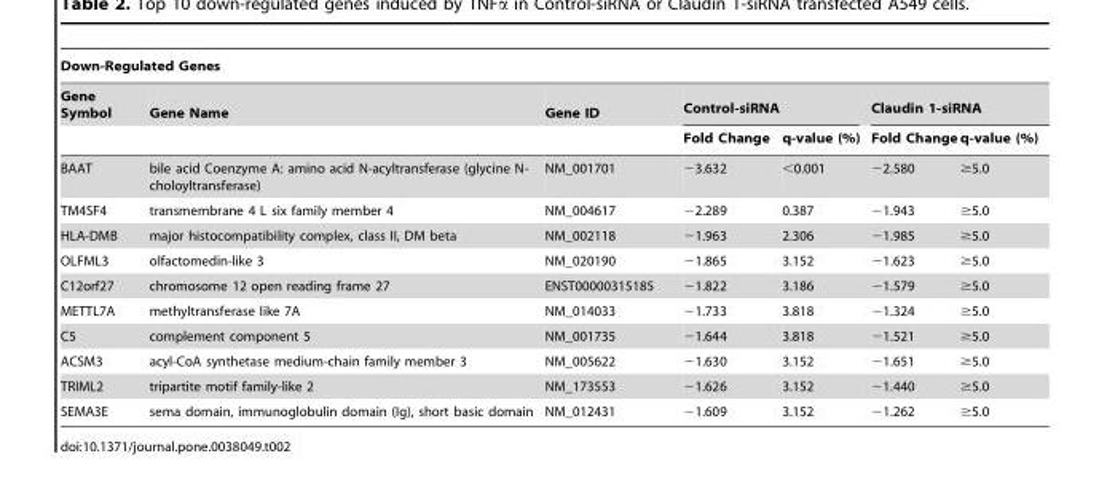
<table><thead><tr><td colspan="7">Down-Regulated Genes</td></tr><tr><td rowspan="2">Gene Symbol</td><td rowspan="2">Gene Name</td><td rowspan="2">Gene ID</td><td colspan="2">Control-siRNA</td><td colspan="2">Claudin 1-siRNA</td></tr><tr><td>Fold Change</td><td>q-value (%)</td><td>Fold Change</td><td>q-value (%)</td></tr></thead><tbody><tr><td>BAAT</td><td>bile acid Coenzyme A: amino acid N-acyltransferase (glycine N- choloyltransferase)</td><td>NM_001701</td><td>−3.632</td><td>&lt;0.001</td><td>−2.580</td><td>≥5.0</td></tr><tr><td>TM4SF4</td><td>transmembrane 4 L six family member 4</td><td>NM_004617</td><td>−2.289</td><td>0.387</td><td>−1.943</td><td>≥5.0</td></tr><tr><td>HLA-DMB</td><td>major histocompatibility complex, class II, DM beta</td><td>NM_002118</td><td>−1.963</td><td>2.306</td><td>−1.985</td><td>≥5.0</td></tr><tr><td>OLFML3</td><td>olfactomedin-like 3</td><td>NM_020190</td><td>−1.865</td><td>3.152</td><td>−1.623</td><td>≥5.0</td></tr><tr><td>C12orf27</td><td>chromosome 12 open reading frame 27</td><td>ENST00000315185</td><td>−1.822</td><td>3.186</td><td>−1.579</td><td>≥5.0</td></tr><tr><td>METTL7A</td><td>methyltransferase like 7A</td><td>NM_014033</td><td>−1.733</td><td>3.818</td><td>−1.324</td><td>≥5.0</td></tr><tr><td>C5</td><td>complement component 5</td><td>NM_001735</td><td>−1.644</td><td>3.818</td><td>−1.521</td><td>≥5.0</td></tr><tr><td>ACSM3</td><td>acyl-CoA synthetase medium-chain family member 3</td><td>NM_005622</td><td>−1.630</td><td>3.152</td><td>−1.651</td><td>≥5.0</td></tr><tr><td>TRIML2</td><td>tripartite motif family-like 2</td><td>NM_173553</td><td>−1.626</td><td>3.152</td><td>−1.440</td><td>≥5.0</td></tr><tr><td>SEMA3E</td><td>sema domain, immunoglobulin domain (Ig), short basic domain</td><td>NM_012431</td><td>−1.609</td><td>3.152</td><td>−1.262</td><td>≥5.0</td></tr></tbody></table>